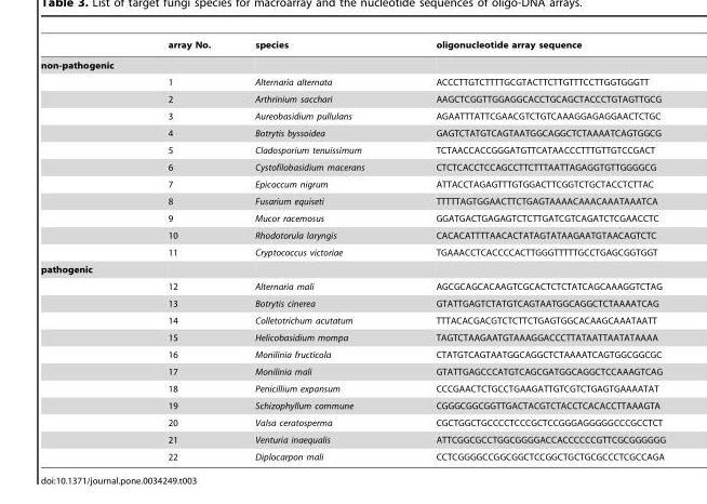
<table><thead><tr><td></td><td>array No.</td><td>species</td><td>oligonucleotide array sequence</td></tr></thead><tbody><tr><td colspan="4">non-pathogenic</td></tr><tr><td></td><td>1</td><td>Alternaria alternata</td><td>ACCCTTGTCTTTTGCGTACTTCTTGTTTCCTTGGTGGGTT</td></tr><tr><td></td><td>2</td><td>Arthrinium sacchari</td><td>AAGCTCGGTTGGAGGCACCTGCAGCTACCCTGTAGTTGCG</td></tr><tr><td></td><td>3</td><td>Aureobasidium pullulans</td><td>AGAATTTATTCGAACGTCTGTCAAAGGAGAGGAACTCTGC</td></tr><tr><td></td><td>4</td><td>Botrytis byssoidea</td><td>GAGTCTATGTCAGTAATGGCAGGCTCTAAAATCAGTGGCG</td></tr><tr><td></td><td>5</td><td>Cladosporium tenuissimum</td><td>TCTAACCACCGGGATGTTCATAACCCTTTGTTGTCCGACT</td></tr><tr><td></td><td>6</td><td>Cystofilobasidium macerans</td><td>CTCTCACCTCCAGCCTTCTTTAATTAGAGGTGTTGGGGCG</td></tr><tr><td></td><td>7</td><td>Epicoccum nigrum</td><td>ATTACCTAGAGTTTGTGGACTTCGGTCTGCTACCTCTTAC</td></tr><tr><td></td><td>8</td><td>Fusarium equiseti</td><td>TTTTTAGTGGAACTTCTGAGTAAAACAAACAAATAAATCA</td></tr><tr><td></td><td>9</td><td>Mucor racemosus</td><td>GGATGACTGAGAGTCTCTTGATCGTCAGATCTCGAACCTC</td></tr><tr><td></td><td>10</td><td>Rhodotorula laryngis</td><td>CACACATTTTAACACTATAGTATAAGAATGTAACAGTCTC</td></tr><tr><td></td><td>11</td><td>Cryptococcus victoriae</td><td>TGAAACCTCACCCCACTTGGGTTTTTGCCTGAGCGGTGGT</td></tr><tr><td colspan="4">pathogenic</td></tr><tr><td></td><td>12</td><td>Alternaria mali</td><td>AGCGCAGCACAAGTCGCACTCTCTATCAGCAAAGGTCTAG</td></tr><tr><td></td><td>13</td><td>Botrytis cinerea</td><td>GTATTGAGTCTATGTCAGTAATGGCAGGCTCTAAAATCAG</td></tr><tr><td></td><td>14</td><td>Colletotrichum acutatum</td><td>TTTACACGACGTCTCTTCTGAGTGGCACAAGCAAATAATT</td></tr><tr><td></td><td>15</td><td>Helicobasidium mompa</td><td>TAGTCTAAGAATGTAAAGGACCCTTATAATTAATATAAAA</td></tr><tr><td></td><td>16</td><td>Monilinia fructicola</td><td>CTATGTCAGTAATGGCAGGCTCTAAAATCAGTGGCGGCGC</td></tr><tr><td></td><td>17</td><td>Monilinia mali</td><td>GTATTGAGCCCATGTCAGCGATGGCAGGCTCCAAAGTCAG</td></tr><tr><td></td><td>18</td><td>Penicillium expansum</td><td>CCCGAACTCTGCCTGAAGATTGTCGTCTGAGTGAAAATAT</td></tr><tr><td></td><td>19</td><td>Schizophyllum commune</td><td>CGGGCGGCGGTTGACTACGTCTACCTCACACCTTAAAGTA</td></tr><tr><td></td><td>20</td><td>Valsa ceratosperma</td><td>CGCTGGCTGCCCCTCCCGCTCCGGGAGGGGGCCCGCCTCT</td></tr><tr><td></td><td>21</td><td>Venturia inaequalis</td><td>ATTCGGCGCCTGGCGGGGACCACCCCCCGTTCGCGGGGGG</td></tr><tr><td></td><td>22</td><td>Diplocarpon mali</td><td>CCTCGGGGCCGGCGGCTCCGGCTGCTGCGCCCTCGCCAGA</td></tr></tbody></table>